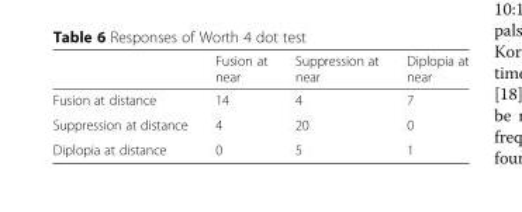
<table><thead><tr><td></td><td>Fusion at near</td><td>Suppression at near</td><td>Diplopia at near</td></tr></thead><tbody><tr><td>Fusion at distance</td><td>14</td><td>4</td><td>7</td></tr><tr><td>Suppression at distance</td><td>4</td><td>20</td><td>0</td></tr><tr><td>Diplopia at distance</td><td>0</td><td>5</td><td>1</td></tr></tbody></table>